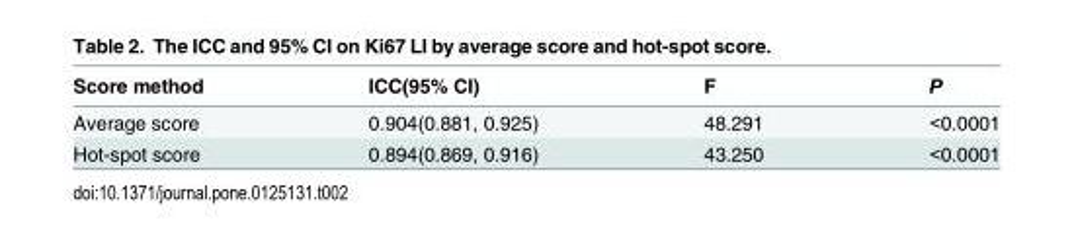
<table><thead><tr><td>Score method</td><td>ICC(95% CI)</td><td>F</td><td>P</td></tr></thead><tbody><tr><td>Average score</td><td>0.904(0.881, 0.925)</td><td>48.291</td><td>&lt;0.0001</td></tr><tr><td>Hot-spot score</td><td>0.894(0.869, 0.916)</td><td>43.250</td><td>&lt;0.0001</td></tr></tbody></table>